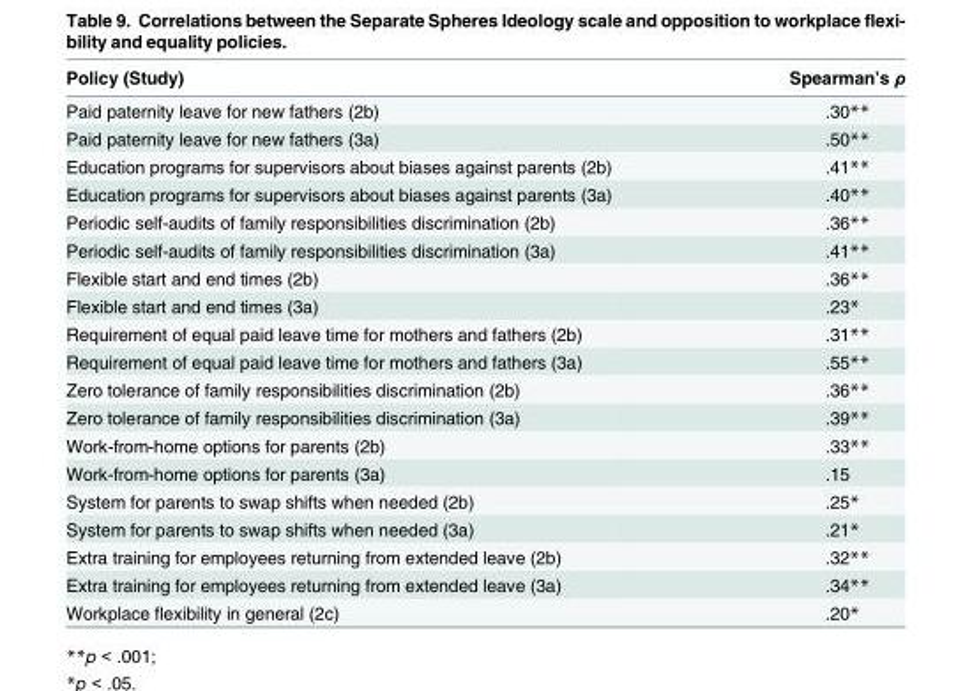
<table><thead><tr><td>Policy (Study)</td><td>Spearman’s ρ</td></tr></thead><tbody><tr><td>Paid paternity leave for new fathers (2b)</td><td>.30**</td></tr><tr><td>Paid paternity leave for new fathers (3a)</td><td>.50**</td></tr><tr><td>Education programs for supervisors about biases against parents (2b)</td><td>.41**</td></tr><tr><td>Education programs for supervisors about biases against parents (3a)</td><td>.40**</td></tr><tr><td>Periodic self-audits of family responsibilities discrimination (2b)</td><td>.36**</td></tr><tr><td>Periodic self-audits of family responsibilities discrimination (3a)</td><td>.41**</td></tr><tr><td>Flexible start and end times (2b)</td><td>.36**</td></tr><tr><td>Flexible start and end times (3a)</td><td>.23*</td></tr><tr><td>Requirement of equal paid leave time for mothers and fathers (2b)</td><td>.31**</td></tr><tr><td>Requirement of equal paid leave time for mothers and fathers (3a)</td><td>.55**</td></tr><tr><td>Zero tolerance of family responsibilities discrimination (2b)</td><td>.36**</td></tr><tr><td>Zero tolerance of family responsibilities discrimination (3a)</td><td>.39**</td></tr><tr><td>Work-from-home options for parents (2b)</td><td>.33**</td></tr><tr><td>Work-from-home options for parents (3a)</td><td>.15</td></tr><tr><td>System for parents to swap shifts when needed (2b)</td><td>.25*</td></tr><tr><td>System for parents to swap shifts when needed (3a)</td><td>.21*</td></tr><tr><td>Extra training for employees returning from extended leave (2b)</td><td>.32**</td></tr><tr><td>Extra training for employees returning from extended leave (3a)</td><td>.34**</td></tr><tr><td>Workplace flexibility in general (2c)</td><td>.20*</td></tr></tbody></table>